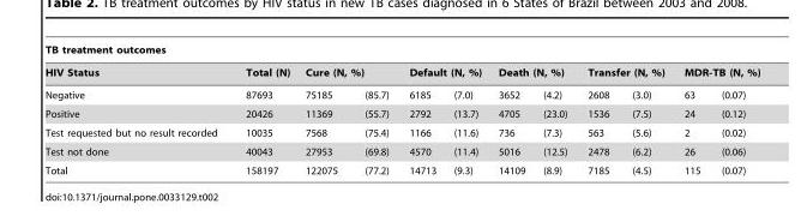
<table><thead><tr><td colspan="12">TB treatment outcomes</td></tr><tr><td rowspan="2">HIV Status Negative</td><td rowspan="2">Total (N) 87693</td><td colspan="2">Cure (N, %)</td><td colspan="2">Default (N, %)</td><td colspan="2">Death (N, %)</td><td colspan="2">Transfer (N, %)</td><td colspan="2">MDR-TB (N, %)</td></tr><tr><td>75185</td><td>(85.7)</td><td>6185</td><td>(7.0)</td><td>3652</td><td>(4.2)</td><td>2608</td><td>(3.0)</td><td>63</td><td>(0.07)</td></tr></thead><tbody><tr><td>Positive</td><td>20426</td><td>11369</td><td>(55.7)</td><td>2792</td><td>(13.7)</td><td>4705</td><td>(23.0)</td><td>1536</td><td>(7.5)</td><td>24</td><td>(0.12)</td></tr><tr><td>Test requested but no result recorded</td><td>10035</td><td>7568</td><td>(75.4)</td><td>1166</td><td>(11.6)</td><td>736</td><td>(7.3)</td><td>563</td><td>(5.6)</td><td>2</td><td>(0.02)</td></tr><tr><td>Test not done</td><td>40043</td><td>27953</td><td>(69.8)</td><td>4570</td><td>(11.4)</td><td>5016</td><td>(12.5)</td><td>2478</td><td>(6.2)</td><td>26</td><td>(0.06)</td></tr><tr><td>Total</td><td>158197</td><td>122075</td><td>(77.2)</td><td>14713</td><td>(9.3)</td><td>14109</td><td>(8.9)</td><td>7185</td><td>(4.5)</td><td>115</td><td>(0.07)</td></tr></tbody></table>